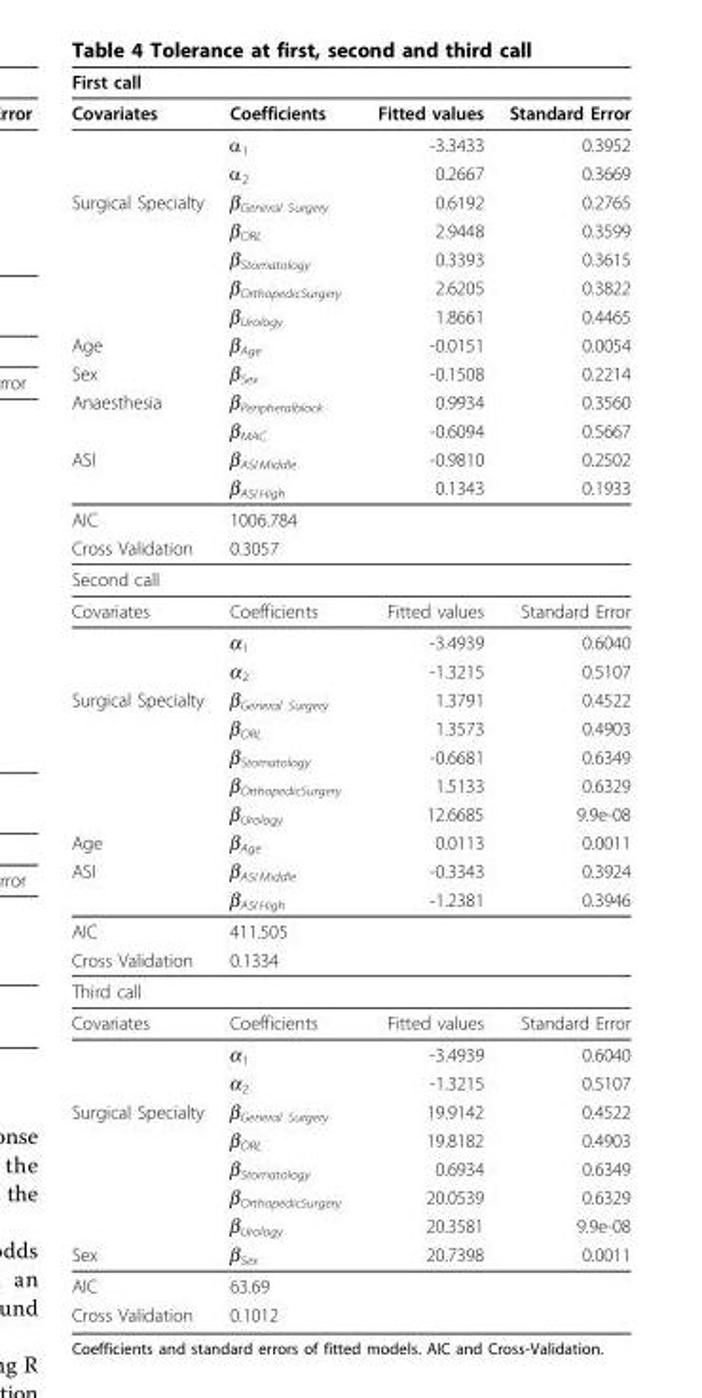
<table><thead><tr><td>First call</td><td></td><td></td><td></td></tr></thead><tbody><tr><td rowspan="3">Covariates</td><td>Coefficients</td><td>Fitted values</td><td>Standard Error</td></tr><tr><td>α<sub>1</sub></td><td>-3.3433</td><td>0.3952</td></tr><tr><td>α<sub>2</sub></td><td>0.2667</td><td>0.3669</td></tr><tr><td rowspan="5">Surgical Specialty</td><td>β<sub>General Surgery</sub></td><td>0.6192</td><td>0.2765</td></tr><tr><td>β<sub>ORL</sub></td><td>2.9448</td><td>0.3599</td></tr><tr><td>β<sub>Stomatology</sub></td><td>0.3393</td><td>0.3615</td></tr><tr><td>β<sub>OrthopedicSurgery</sub></td><td>2.6205</td><td>0.3822</td></tr><tr><td>β<sub>Urology</sub></td><td>1.8661</td><td>0.4465</td></tr><tr><td>Age</td><td>β<sub>Age</sub></td><td>-0.0151</td><td>0.0054</td></tr><tr><td>Sex</td><td>β<sub>Sex</sub></td><td>-0.1508</td><td>0.2214</td></tr><tr><td rowspan="2">Anaesthesia</td><td>β<sub>Peripheralblock</sub></td><td>0.9934</td><td>0.3560</td></tr><tr><td>β<sub>MAC</sub></td><td>-0.6094</td><td>0.5667</td></tr><tr><td rowspan="2">ASI</td><td>β<sub>ASI.Middle</sub></td><td>-0.9810</td><td>0.2502</td></tr><tr><td>β<sub>ASI.High</sub></td><td>0.1343</td><td>0.1933</td></tr><tr><td>AIC</td><td>1006.784</td><td></td><td></td></tr><tr><td>Cross Validation</td><td>0.3057</td><td></td><td></td></tr><tr><td colspan="4">Second call</td></tr><tr><td rowspan="3">Covariates</td><td>Coefficients</td><td>Fitted values</td><td>Standard Error</td></tr><tr><td>α<sub>1</sub></td><td>-3.4939</td><td>0.6040</td></tr><tr><td>α<sub>2</sub></td><td>-1.3215</td><td>0.5107</td></tr><tr><td rowspan="5">Surgical Specialty</td><td>β<sub>General Surgery</sub></td><td>1.3791</td><td>0.4522</td></tr><tr><td>β<sub>ORL</sub></td><td>1.3573</td><td>0.4903</td></tr><tr><td>β<sub>Stomatology</sub></td><td>-0.6681</td><td>0.6349</td></tr><tr><td>β<sub>OrthopedicSurgery</sub></td><td>1.5133</td><td>0.6329</td></tr><tr><td>β<sub>Urology</sub></td><td>12.6685</td><td>9.9e-08</td></tr><tr><td>Age</td><td>β<sub>Age</sub></td><td>0.0113</td><td>0.0011</td></tr><tr><td rowspan="2">ASI</td><td>β<sub>ASI.Middle</sub></td><td>-0.3343</td><td>0.3924</td></tr><tr><td>β<sub>ASI.High</sub></td><td>-1.2381</td><td>0.3946</td></tr><tr><td>AIC</td><td>411.505</td><td></td><td></td></tr><tr><td>Cross Validation</td><td>0.1334</td><td></td><td></td></tr><tr><td colspan="4">Third call</td></tr><tr><td rowspan="3">Covariates</td><td>Coefficients</td><td>Fitted values</td><td>Standard Error</td></tr><tr><td>α<sub>1</sub></td><td>-3.4939</td><td>0.6040</td></tr><tr><td>α<sub>2</sub></td><td>-1.3215</td><td>0.5107</td></tr><tr><td rowspan="5">Surgical Specialty</td><td>β<sub>General Surgery</sub></td><td>19.9142</td><td>0.4522</td></tr><tr><td>β<sub>ORL</sub></td><td>19.8182</td><td>0.4903</td></tr><tr><td>β<sub>Stomatology</sub></td><td>0.6934</td><td>0.6349</td></tr><tr><td>β<sub>OrthopedicSurgery</sub></td><td>20.0539</td><td>0.6329</td></tr><tr><td>β<sub>Urology</sub></td><td>20.3581</td><td>9.9e-08</td></tr><tr><td>Sex</td><td>β<sub>Sex</sub></td><td>20.7398</td><td>0.0011</td></tr><tr><td>AIC</td><td>63.69</td><td></td><td></td></tr><tr><td>Cross Validation</td><td>0.1012</td><td></td><td></td></tr></tbody></table>